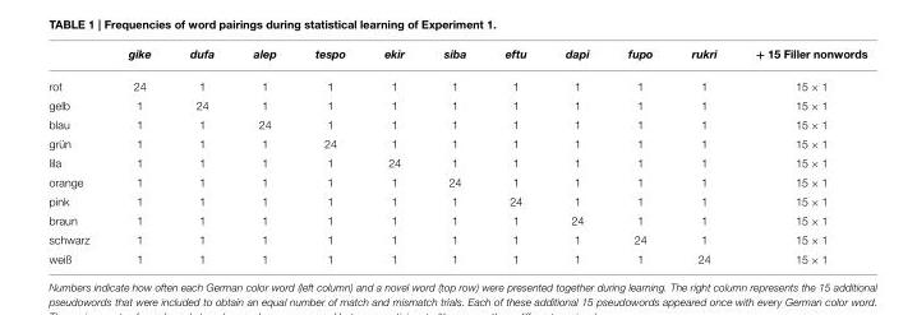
<table><thead><tr><td></td><td>gike</td><td>dufa</td><td>alep</td><td>tespo</td><td>ekir</td><td>siba</td><td>eftu</td><td>dapi</td><td>fupo</td><td>rukri</td><td>+ 15 Filler nonwords</td></tr></thead><tbody><tr><td>rot</td><td>24</td><td>1</td><td>1</td><td>1</td><td>1</td><td>1</td><td>1</td><td>1</td><td>1</td><td>1</td><td>15 × 1</td></tr><tr><td>gelb</td><td>1</td><td>24</td><td>1</td><td>1</td><td>1</td><td>1</td><td>1</td><td>1</td><td>1</td><td>1</td><td>15 × 1</td></tr><tr><td>blau</td><td>1</td><td>1</td><td>24</td><td>1</td><td>1</td><td>1</td><td>1</td><td>1</td><td>1</td><td>1</td><td>15 × 1</td></tr><tr><td>grün</td><td>1</td><td>1</td><td>1</td><td>24</td><td>1</td><td>1</td><td>1</td><td>1</td><td>1</td><td>1</td><td>15 × 1</td></tr><tr><td>lila</td><td>1</td><td>1</td><td>1</td><td>1</td><td>24</td><td>1</td><td>1</td><td>1</td><td>1</td><td>1</td><td>15 × 1</td></tr><tr><td>orange</td><td>1</td><td>1</td><td>1</td><td>1</td><td>1</td><td>24</td><td>1</td><td>1</td><td>1</td><td>1</td><td>15 × 1</td></tr><tr><td>pink</td><td>1</td><td>1</td><td>1</td><td>1</td><td>1</td><td>1</td><td>24</td><td>1</td><td>1</td><td>1</td><td>15 × 1</td></tr><tr><td>braun</td><td>1</td><td>1</td><td>1</td><td>1</td><td>1</td><td>1</td><td>1</td><td>24</td><td>1</td><td>1</td><td>15 × 1</td></tr><tr><td>schwarz</td><td>1</td><td>1</td><td>1</td><td>1</td><td>1</td><td>1</td><td>1</td><td>1</td><td>24</td><td>1</td><td>15 × 1</td></tr><tr><td>weiß</td><td>1</td><td>1</td><td>1</td><td>1</td><td>1</td><td>1</td><td>1</td><td>1</td><td>1</td><td>24</td><td>15 × 1</td></tr></tbody></table>